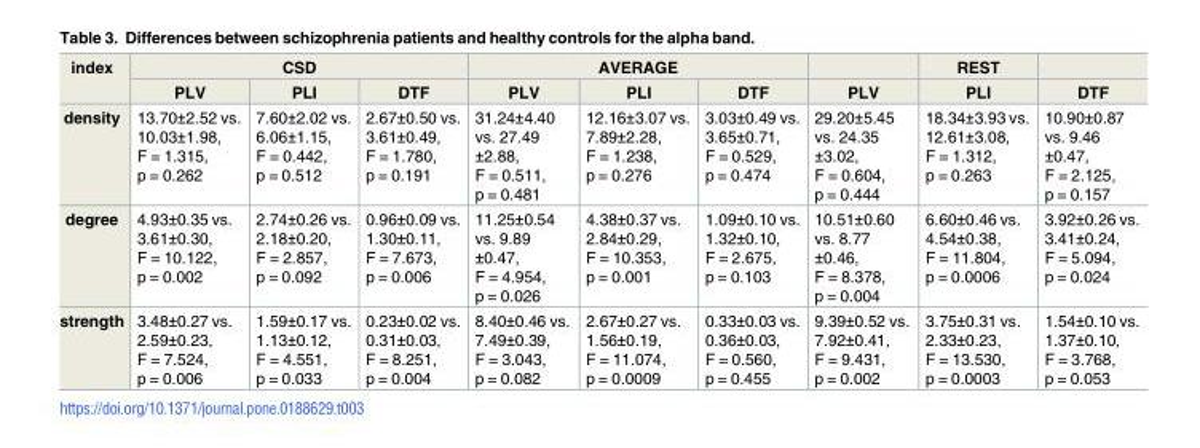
<table><thead><tr><td rowspan="2">index</td><td colspan="3">CSD</td><td colspan="3">AVERAGE</td><td rowspan="2">PLV</td><td rowspan="2">REST PLI</td><td rowspan="2">DTF</td></tr><tr><td>PLV</td><td>PLI</td><td>DTF</td><td>PLV</td><td>PLI</td><td>DTF</td></tr></thead><tbody><tr><td>density</td><td>13.70±2.52 vs. 10.03±1.98, F = 1.315, p = 0.262</td><td>7.60±2.02 vs. 6.06±1.15, F = 0.442, p = 0.512</td><td>2.67±0.50 vs. 3.61±0.49, F = 1.780, p = 0.191</td><td>31.24±4.40 vs. 27.49 ±2.88, F = 0.511, p = 0.481</td><td>12.16±3.07 vs. 7.89±2.28, F = 1.238, p = 0.276</td><td>3.03±0.49 vs. 3.65±0.71, F = 0.529, p = 0.474</td><td>29.20±5.45 vs. 24.35 ±3.02, F = 0.604, p = 0.444</td><td>18.34±3.93 vs. 12.61±3.08, F = 1.312, p = 0.263</td><td>10.90±0.87 vs. 9.46 ±0.47, F = 2.125, p = 0.157</td></tr><tr><td>degree</td><td>4.93±0.35 vs. 3.61±0.30, F = 10.122, p = 0.002</td><td>2.74±0.26 vs. 2.18±0.20, F = 2.857, p = 0.092</td><td>0.96±0.09 vs. 1.30±0.11, F = 7.673, p = 0.006</td><td>11.25±0.54 vs. 9.89 ±0.47, F = 4.954, p = 0.026</td><td>4.38±0.37 vs. 2.84±0.29, F = 10.353, p = 0.001</td><td>1.09±0.10 vs. 1.32±0.10, F = 2.675, p = 0.103</td><td>10.51±0.60 vs. 8.77 ±0.46, F = 8.378, p = 0.004</td><td>6.60±0.46 vs. 4.54±0.38, F = 11.804, p = 0.0006</td><td>3.92±0.26 vs. 3.41±0.24, F = 5.094, p = 0.024</td></tr><tr><td>strength</td><td>3.48±0.27 vs. 2.59±0.23, F = 7.524, p = 0.006</td><td>1.59±0.17 vs. 1.13±0.12, F = 4.551, p = 0.033</td><td>0.23±0.02 vs. 0.31±0.03, F = 8.251, p = 0.004</td><td>8.40±0.46 vs. 7.49±0.39, F = 3.043, p = 0.082</td><td>2.67±0.27 vs. 1.56±0.19, F = 11.074, p = 0.0009</td><td>0.33±0.03 vs. 0.36±0.03, F = 0.560, p = 0.455</td><td>9.39±0.52 vs. 7.92±0.41, F = 9.431, p = 0.002</td><td>3.75±0.31 vs. 2.33±0.23, F = 13.530, p = 0.0003</td><td>1.54±0.10 vs. 1.37±0.10, F = 3.768, p = 0.053</td></tr></tbody></table>